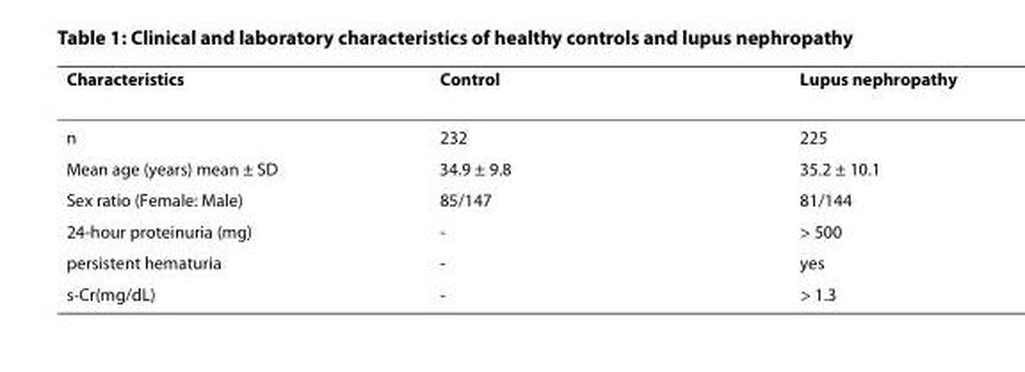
<table><thead><tr><td>Characteristics</td><td>Control</td><td>Lupus nephropathy</td></tr></thead><tbody><tr><td>n</td><td>232</td><td>225</td></tr><tr><td>Mean age (years) mean ± SD</td><td>34.9 ± 9.8</td><td>35.2 ± 10.1</td></tr><tr><td>Sex ratio (Female: Male)</td><td>85/147</td><td>81/144</td></tr><tr><td>24-hour proteinuria (mg)</td><td>-</td><td>&gt; 500</td></tr><tr><td>persistent hematuria</td><td>-</td><td>yes</td></tr><tr><td>s-Cr(mg/dL)</td><td>-</td><td>&gt; 1.3</td></tr></tbody></table>